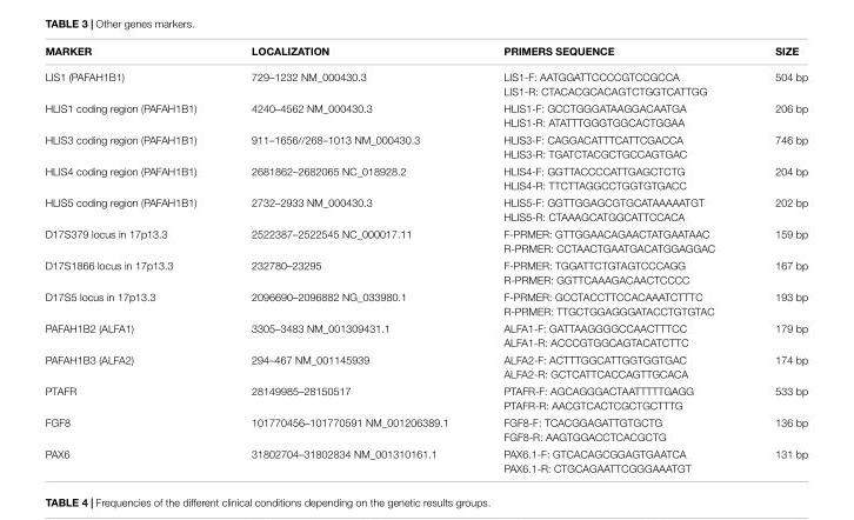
<table><thead><tr><td>MARKER</td><td>LOCALIZATION</td><td>PRIMERS SEQUENCE</td><td>SIZE</td></tr></thead><tbody><tr><td>LIS1 (PAFAH1B1)</td><td>729–1232 NM_000430.3</td><td>LIS1-F: AATGGATTCCCCGTCCGCCA LIS1-R: CTACACGCACAGTCTGGTCATTGG</td><td>504 bp</td></tr><tr><td>HLIS1 coding region (PAFAH1B1)</td><td>4240–4562 NM_000430.3</td><td>HLIS1-F: GCCTGGGATAAGGACAATGA HLIS1-R: ATATTTGGGTGGCACTGGAA</td><td>206 bp</td></tr><tr><td>HLIS3 coding region (PAFAH1B1)</td><td>911–1656//268–1013 NM_000430.3</td><td>HLIS3-F: CAGGACATTTCATTCGACCA HLIS3-R: TGATCTACGCTGCCAGTGAC</td><td>746 bp</td></tr><tr><td>HLIS4 coding region (PAFAH1B1)</td><td>2681862–2682065 NC_018928.2</td><td>HLIS4-F: GGTTACCCCATTGAGCTCTG HLIS4-R: TTCTTAGGCCTGGTGTGACC</td><td>204 bp</td></tr><tr><td>HLIS5 coding region (PAFAH1B1)</td><td>2732–2933 NM_000430.3</td><td>HLIS5-F: GGTTGGAGCGTGCATAAAAATGT HLIS5-R: CTAAAGCATGGCATTCCACA</td><td>202 bp</td></tr><tr><td>D17S379 locus in 17p13.3</td><td>2522387–2522545 NC_000017.11</td><td>F-PRMER: GTTGGAACAGAACTATGAATAAC R-PRMER: CCTAACTGAATGACATGGAGGAC</td><td>159 bp</td></tr><tr><td>D17S1866 locus in 17p13.3</td><td>232780–23295</td><td>F-PRMER: TGGATTCTGTAGTCCCAGG R-PRMER: GGTTCAAAGACAACTCCCC</td><td>167 bp</td></tr><tr><td>D17S5 locus in 17p13.3</td><td>2096690–2096882 NG_033980.1</td><td>F-PRMER: GCCTACCTTCCACAAATCTTTC R-PRMER: TTGCTGGAGGGATACCTGTGTAC</td><td>193 bp</td></tr><tr><td>PAFAH1B2 (ALFA1)</td><td>3305–3483 NM_001309431.1</td><td>ALFA1-F: GATTAAGGGGCCAACTTTCC ALFA1-R: ACCCGTGGCAGTACATCTTC</td><td>179 bp</td></tr><tr><td>PAFAH1B3 (ALFA2)</td><td>294–467 NM_001145939</td><td>ALFA2-F: ACTTTGGCATTGGTGGTGAC ALFA2-R: GCTCATTCACCAGTTGCACA</td><td>174 bp</td></tr><tr><td>PTAFR</td><td>28149985–28150517</td><td>PTAFR-F: AGCAGGGACTAATTTTTGAGG PTAFR-R: AACGTCACTCGCTGCTTTG</td><td>533 bp</td></tr><tr><td>FGF8</td><td>101770456–101770591 NM_001206389.1</td><td>FGF8-F: TCACGGAGATTGTGCTG FGF8-R: AAGTGGACCTCACGCTG</td><td>136 bp</td></tr><tr><td>PAX6</td><td>31802704–31802834 NM_001310161.1</td><td>PAX6.1-F: GTCACAGCGGAGTGAATCA PAX6.1-R: CTGCAGAATTCGGGAAATGT</td><td>131 bp</td></tr></tbody></table>